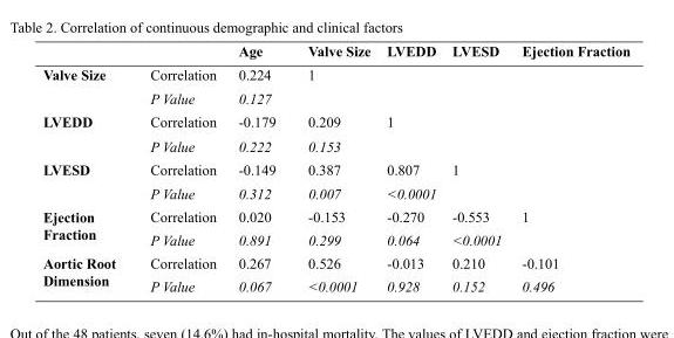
<table><thead><tr><td></td><td></td><td>Age</td><td>Valve Size</td><td>LVEDD</td><td>LVESD</td><td>Ejection Fraction</td></tr></thead><tbody><tr><td rowspan="2">Valve Size</td><td>Correlation</td><td>0.224</td><td>1</td><td></td><td></td><td></td></tr><tr><td>P Value</td><td>0.127</td><td></td><td></td><td></td><td></td></tr><tr><td rowspan="2">LVEDD</td><td>Correlation</td><td>-0.179</td><td>0.209</td><td>1</td><td></td><td></td></tr><tr><td>P Value</td><td>0.222</td><td>0.153</td><td></td><td></td><td></td></tr><tr><td rowspan="2">LVESD</td><td>Correlation</td><td>-0.149</td><td>0.387</td><td>0.807</td><td>1</td><td></td></tr><tr><td>P Value</td><td>0.312</td><td>0.007</td><td>&lt;0.0001</td><td></td><td></td></tr><tr><td rowspan="2">Ejection Fraction</td><td>Correlation</td><td>0.020</td><td>-0.153</td><td>-0.270</td><td>-0.553</td><td>1</td></tr><tr><td>P Value</td><td>0.891</td><td>0.299</td><td>0.064</td><td>&lt;0.0001</td><td></td></tr><tr><td rowspan="2">Aortic Root Dimension</td><td>Correlation</td><td>0.267</td><td>0.526</td><td>-0.013</td><td>0.210</td><td>-0.101</td></tr><tr><td>P Value</td><td>0.067</td><td>&lt;0.0001</td><td>0.928</td><td>0.152</td><td>0.496</td></tr></tbody></table>